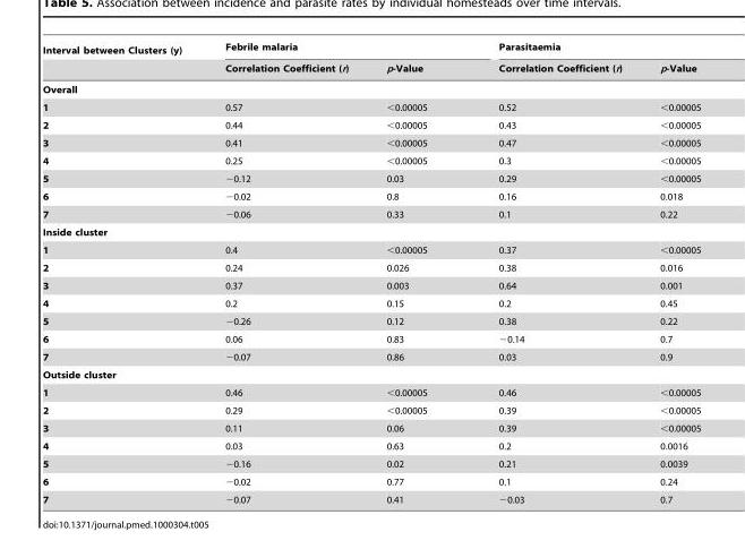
<table><thead><tr><td rowspan="2">Interval between Clusters (y)</td><td colspan="2">Febrile malaria</td><td colspan="2">Parasitaemia</td></tr><tr><td>Correlation Coefficient (r)</td><td>p-Value</td><td>Correlation Coefficient (r)</td><td>p-Value</td></tr></thead><tbody><tr><td colspan="5">Overall</td></tr><tr><td>1</td><td>0.57</td><td>&lt;0.00005</td><td>0.52</td><td>&lt;0.00005</td></tr><tr><td>2</td><td>0.44</td><td>&lt;0.00005</td><td>0.43</td><td>&lt;0.00005</td></tr><tr><td>3</td><td>0.41</td><td>&lt;0.00005</td><td>0.47</td><td>&lt;0.00005</td></tr><tr><td>4</td><td>0.25</td><td>&lt;0.00005</td><td>0.3</td><td>&lt;0.00005</td></tr><tr><td>5</td><td>−0.12</td><td>0.03</td><td>0.29</td><td>&lt;0.00005</td></tr><tr><td>6</td><td>−0.02</td><td>0.8</td><td>0.16</td><td>0.018</td></tr><tr><td>7</td><td>−0.06</td><td>0.33</td><td>0.1</td><td>0.22</td></tr><tr><td colspan="5">Inside cluster</td></tr><tr><td>1</td><td>0.4</td><td>&lt;0.00005</td><td>0.37</td><td>&lt;0.00005</td></tr><tr><td>2</td><td>0.24</td><td>0.026</td><td>0.38</td><td>0.016</td></tr><tr><td>3</td><td>0.37</td><td>0.003</td><td>0.64</td><td>0.001</td></tr><tr><td>4</td><td>0.2</td><td>0.15</td><td>0.2</td><td>0.45</td></tr><tr><td>5</td><td>−0.26</td><td>0.12</td><td>0.38</td><td>0.22</td></tr><tr><td>6</td><td>0.06</td><td>0.83</td><td>−0.14</td><td>0.7</td></tr><tr><td>7</td><td>−0.07</td><td>0.86</td><td>0.03</td><td>0.9</td></tr><tr><td colspan="5">Outside cluster</td></tr><tr><td>1</td><td>0.46</td><td>&lt;0.00005</td><td>0.46</td><td>&lt;0.00005</td></tr><tr><td>2</td><td>0.29</td><td>&lt;0.00005</td><td>0.39</td><td>&lt;0.00005</td></tr><tr><td>3</td><td>0.11</td><td>0.06</td><td>0.39</td><td>&lt;0.00005</td></tr><tr><td>4</td><td>0.03</td><td>0.63</td><td>0.2</td><td>0.0016</td></tr><tr><td>5</td><td>−0.16</td><td>0.02</td><td>0.21</td><td>0.0039</td></tr><tr><td>6</td><td>−0.02</td><td>0.77</td><td>0.1</td><td>0.24</td></tr><tr><td>7</td><td>−0.07</td><td>0.41</td><td>−0.03</td><td>0.7</td></tr></tbody></table>